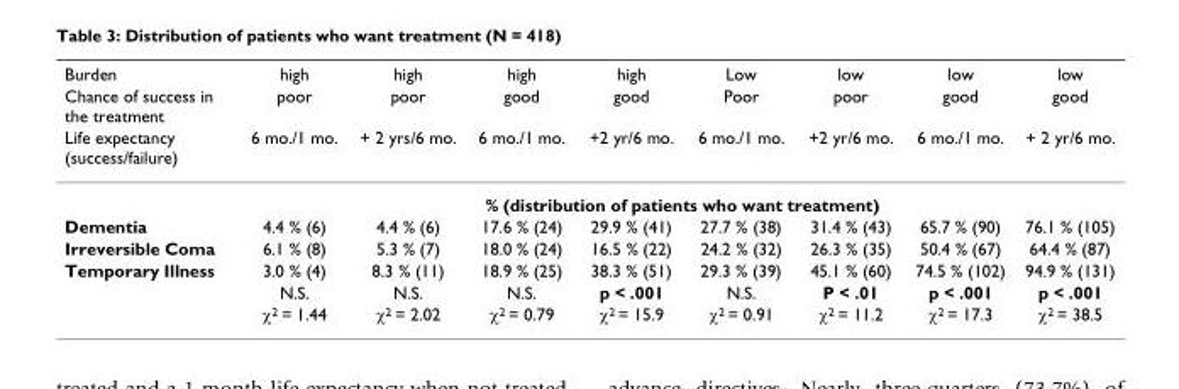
<table><thead><tr><td rowspan="3">Burden Chance of success in the treatment Life expectancy (success/failure)</td><td rowspan="3">high poor 6 mo./1 mo.</td><td rowspan="3">high poor + 2 yrs/6 mo.</td><td rowspan="3">high good 6 mo./1 mo.</td><td rowspan="3">high good +2 yr/6 mo.</td><td rowspan="3">Low Poor 6 mo./1 mo.</td><td rowspan="3">low poor +2 yr/6 mo.</td><td rowspan="3">low good 6 mo./1 mo.</td><td rowspan="3">low good + 2 yr/6 mo.</td></tr><tr></tr><tr></tr></thead><tbody><tr><td></td><td colspan="8">% (distribution of patients who want treatment)</td></tr><tr><td>Dementia</td><td>4.4 % (6)</td><td>4.4 % (6)</td><td>17.6 % (24)</td><td>29.9 % (41)</td><td>27.7 % (38)</td><td>31.4 % (43)</td><td>65.7 % (90)</td><td>76.1 % (105)</td></tr><tr><td>Irreversible Coma</td><td>6.1 % (8)</td><td>5.3 % (7)</td><td>18.0 % (24)</td><td>16.5 % (22)</td><td>24.2 % (32)</td><td>26.3 % (35)</td><td>50.4 % (67)</td><td>64.4 % (87)</td></tr><tr><td rowspan="3">Temporary Illness</td><td>3.0 % (4)</td><td>8.3 % (11)</td><td>18.9 % (25)</td><td>38.3 % (51)</td><td>29.3 % (39)</td><td>45.1 % (60)</td><td>74.5 % (102)</td><td>94.9 % (131)</td></tr><tr><td>N.S.</td><td>N.S.</td><td>N.S.</td><td>p &lt; .001</td><td>N.S.</td><td>P &lt; .01</td><td>p &lt; .001</td><td>p &lt; .001</td></tr><tr><td>χ<sup>2</sup> = 1.44</td><td>χ<sup>2</sup> = 2.02</td><td>χ<sup>2</sup> = 0.79</td><td>χ<sup>2</sup> = 15.9</td><td>χ<sup>2</sup> = 0.91</td><td>χ<sup>2</sup> = 11.2</td><td>χ<sup>2</sup> = 17.3</td><td>χ<sup>2</sup> = 38.5</td></tr></tbody></table>